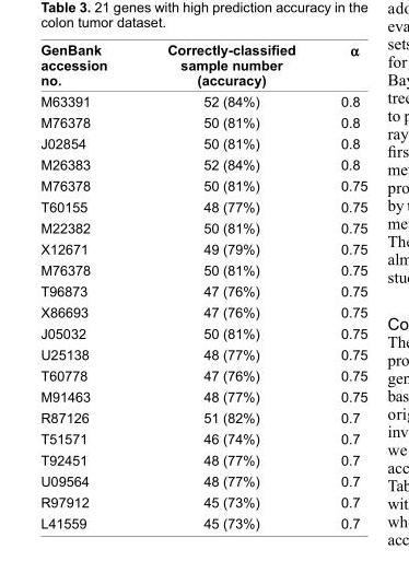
<table><thead><tr><td>GenBank accession no.</td><td>Correctly-classifi ed sample number (accuracy)</td><td>α</td></tr></thead><tbody><tr><td>M63391</td><td>52 (84%)</td><td>0.8</td></tr><tr><td>M76378</td><td>50 (81%)</td><td>0.8</td></tr><tr><td>J02854</td><td>50 (81%)</td><td>0.8</td></tr><tr><td>M26383</td><td>52 (84%)</td><td>0.8</td></tr><tr><td>M76378</td><td>50 (81%)</td><td>0.75</td></tr><tr><td>T60155</td><td>48 (77%)</td><td>0.75</td></tr><tr><td>M22382</td><td>50 (81%)</td><td>0.75</td></tr><tr><td>X12671</td><td>49 (79%)</td><td>0.75</td></tr><tr><td>M76378</td><td>50 (81%)</td><td>0.75</td></tr><tr><td>T96873</td><td>47 (76%)</td><td>0.75</td></tr><tr><td>X86693</td><td>47 (76%)</td><td>0.75</td></tr><tr><td>J05032</td><td>50 (81%)</td><td>0.75</td></tr><tr><td>U25138</td><td>48 (77%)</td><td>0.75</td></tr><tr><td>T60778</td><td>47 (76%)</td><td>0.75</td></tr><tr><td>M91463</td><td>48 (77%)</td><td>0.75</td></tr><tr><td>R87126</td><td>51 (82%)</td><td>0.7</td></tr><tr><td>T51571</td><td>46 (74%)</td><td>0.7</td></tr><tr><td>T92451</td><td>48 (77%)</td><td>0.7</td></tr><tr><td>U09564</td><td>48 (77%)</td><td>0.7</td></tr><tr><td>R97912</td><td>45 (73%)</td><td>0.7</td></tr><tr><td>L41559</td><td>45 (73%)</td><td>0.7</td></tr></tbody></table>